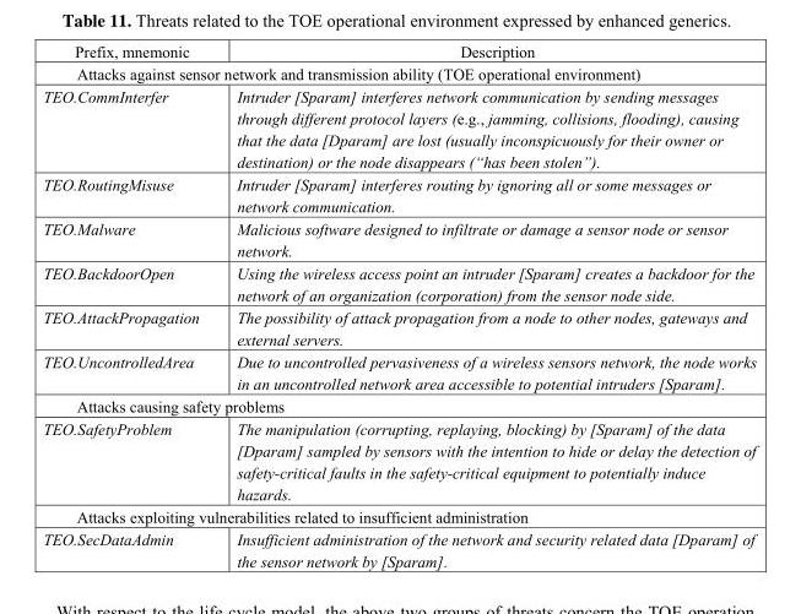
<table><thead><tr><td>Prefix, mnemonic</td><td>Description</td></tr></thead><tbody><tr><td colspan="2">Attacks against sensor network and transmission ability (TOE operational environment)</td></tr><tr><td>TEO.CommInterfer</td><td>Intruder [Sparam] interferes network communication by sending messages through different protocol layers (e.g., jamming, collisions, flooding), causing that the data [Dparam] are lost (usually inconspicuously for their owner or destination) or the node disappears (“has been stolen”).</td></tr><tr><td>TEO.RoutingMisuse</td><td>Intruder [Sparam] interferes routing by ignoring all or some messages or network communication.</td></tr><tr><td>TEO.Malware</td><td>Malicious software designed to infiltrate or damage a sensor node or sensor network.</td></tr><tr><td>TEO.BackdoorOpen</td><td>Using the wireless access point an intruder [Sparam] creates a backdoor for the network of an organization (corporation) from the sensor node side.</td></tr><tr><td>TEO.AttackPropagation</td><td>The possibility of attack propagation from a node to other nodes, gateways and external servers.</td></tr><tr><td>TEO.UncontrolledArea</td><td>Due to uncontrolled pervasiveness of a wireless sensors network, the node works in an uncontrolled network area accessible to potential intruders [Sparam].</td></tr><tr><td colspan="2">Attacks causing safety problems</td></tr><tr><td>TEO.SafetyProblem</td><td>The manipulation (corrupting, replaying, blocking) by [Sparam] of the data [Dparam] sampled by sensors with the intention to hide or delay the detection of safety-critical faults in the safety-critical equipment to potentially induce hazards.</td></tr><tr><td colspan="2">Attacks exploiting vulnerabilities related to insufficient administration</td></tr><tr><td>TEO.SecDataAdmin</td><td>Insufficient administration of the network and security related data [Dparam] of the sensor network by [Sparam].</td></tr></tbody></table>